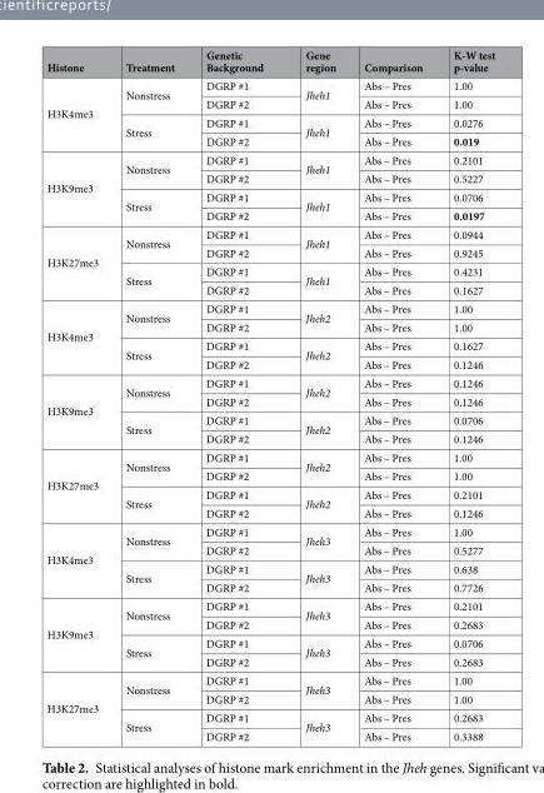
<table><thead><tr><td>Histone</td><td>Treatment</td><td>Genetic Background</td><td>Gene region</td><td>Comparison</td><td>K-W test p-value</td></tr></thead><tbody><tr><td rowspan="4">H3K4me3</td><td rowspan="2">Nonstress</td><td>DGRP #1</td><td rowspan="2">Jheh1</td><td>Abs – Pres</td><td>1.00</td></tr><tr><td>DGRP #2</td><td>Abs – Pres</td><td>1.00</td></tr><tr><td rowspan="2">Stress</td><td>DGRP #1</td><td rowspan="2">Jheh1</td><td>Abs – Pres</td><td>0.0276</td></tr><tr><td>DGRP #2</td><td>Abs – Pres</td><td>0.019</td></tr><tr><td rowspan="4">H3K9me3</td><td rowspan="2">Nonstress</td><td>DGRP #1</td><td rowspan="2">Jheh1</td><td>Abs – Pres</td><td>0.2101</td></tr><tr><td>DGRP #2</td><td>Abs – Pres</td><td>0.5227</td></tr><tr><td rowspan="2">Stress</td><td>DGRP #1</td><td rowspan="2">Jheh1</td><td>Abs – Pres</td><td>0.0706</td></tr><tr><td>DGRP #2</td><td>Abs – Pres</td><td>0.0197</td></tr><tr><td rowspan="4">H3K27me3</td><td rowspan="2">Nonstress</td><td>DGRP #1</td><td rowspan="2">Jheh1</td><td>Abs – Pres</td><td>0.0944</td></tr><tr><td>DGRP #2</td><td>Abs – Pres</td><td>0.9245</td></tr><tr><td rowspan="2">Stress</td><td>DGRP #1</td><td rowspan="2">Jheh1</td><td>Abs – Pres</td><td>0.4231</td></tr><tr><td>DGRP #2</td><td>Abs – Pres</td><td>0.1627</td></tr><tr><td rowspan="4">H3K4me3</td><td rowspan="2">Nonstress</td><td>DGRP #1</td><td rowspan="2">Jheh2</td><td>Abs – Pres</td><td>1.00</td></tr><tr><td>DGRP #2</td><td>Abs – Pres</td><td>1.00</td></tr><tr><td rowspan="2">Stress</td><td>DGRP #1</td><td rowspan="2">Jheh2</td><td>Abs – Pres</td><td>0.1627</td></tr><tr><td>DGRP #2</td><td>Abs – Pres</td><td>0.1246</td></tr><tr><td rowspan="4">H3K9me3</td><td rowspan="2">Nonstress</td><td>DGRP #1</td><td rowspan="2">Jheh2</td><td>Abs – Pres</td><td>0.1246</td></tr><tr><td>DGRP #2</td><td>Abs – Pres</td><td>0.1246</td></tr><tr><td rowspan="2">Stress</td><td>DGRP #1</td><td rowspan="2">Jheh2</td><td>Abs – Pres</td><td>0.0706</td></tr><tr><td>DGRP #2</td><td>Abs – Pres</td><td>0.1246</td></tr><tr><td rowspan="4">H3K27me3</td><td rowspan="2">Nonstress</td><td>DGRP #1</td><td rowspan="2">Jheh2</td><td>Abs – Pres</td><td>1.00</td></tr><tr><td>DGRP #2</td><td>Abs – Pres</td><td>1.00</td></tr><tr><td rowspan="2">Stress</td><td>DGRP #1</td><td rowspan="2">Jheh2</td><td>Abs – Pres</td><td>0.2101</td></tr><tr><td>DGRP #2</td><td>Abs – Pres</td><td>0.1246</td></tr><tr><td rowspan="4">H3K4me3</td><td rowspan="2">Nonstress</td><td>DGRP #1</td><td rowspan="2">Jheh3</td><td>Abs – Pres</td><td>1.00</td></tr><tr><td>DGRP #2</td><td>Abs – Pres</td><td>0.5277</td></tr><tr><td rowspan="2">Stress</td><td>DGRP #1</td><td rowspan="2">Jheh3</td><td>Abs – Pres</td><td>0.638</td></tr><tr><td>DGRP #2</td><td>Abs – Pres</td><td>0.7726</td></tr><tr><td rowspan="4">H3K9me3</td><td rowspan="2">Nonstress</td><td>DGRP #1</td><td rowspan="2">Jheh3</td><td>Abs – Pres</td><td>0.2101</td></tr><tr><td>DGRP #2</td><td>Abs – Pres</td><td>0.2683</td></tr><tr><td rowspan="2">Stress</td><td>DGRP #1</td><td rowspan="2">Jheh3</td><td>Abs – Pres</td><td>0.0706</td></tr><tr><td>DGRP #2</td><td>Abs – Pres</td><td>0.2683</td></tr><tr><td rowspan="4">H3K27me3</td><td rowspan="2">Nonstress</td><td>DGRP #1</td><td rowspan="2">Jheh3</td><td>Abs – Pres</td><td>1.00</td></tr><tr><td>DGRP #2</td><td>Abs – Pres</td><td>1.00</td></tr><tr><td rowspan="2">Stress</td><td>DGRP #1</td><td rowspan="2">Jheh3</td><td>Abs – Pres</td><td>0.2683</td></tr><tr><td>DGRP #2</td><td>Abs – Pres</td><td>0.3388</td></tr></tbody></table>